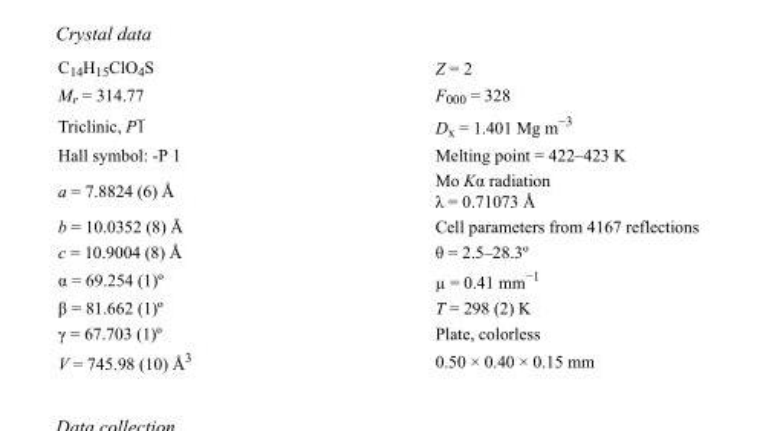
<table><tbody><tr><td>C<sub>14</sub>H<sub>15</sub>ClO<sub>4</sub>S</td><td>Z = 2</td></tr><tr><td>M<sub>r</sub> = 314.77</td><td>F000 = 328</td></tr><tr><td>Triclinic, P1</td><td>D<sub>x</sub> = 1.401 Mg m<sup>−3</sup></td></tr><tr><td>Hall symbol: -P 1</td><td>Melting point = 422–423 K</td></tr><tr><td>a = 7.8824 (6) Å</td><td>Mo Kα radiation λ = 0.71073 Å</td></tr><tr><td>b = 10.0352 (8) Å</td><td>Cell parameters from 4167 reflections</td></tr><tr><td>c = 10.9004 (8) Å</td><td>θ = 2.5–28.3º</td></tr><tr><td>α = 69.254 (1)º</td><td>µ = 0.41 mm<sup>−1</sup></td></tr><tr><td>β = 81.662 (1)º</td><td>T = 298 (2) K</td></tr><tr><td>γ = 67.703 (1)º</td><td>Plate, colorless</td></tr><tr><td>V = 745.98 (10) Å<sup>3</sup></td><td>0.50 × 0.40 × 0.15 mm</td></tr></tbody></table>